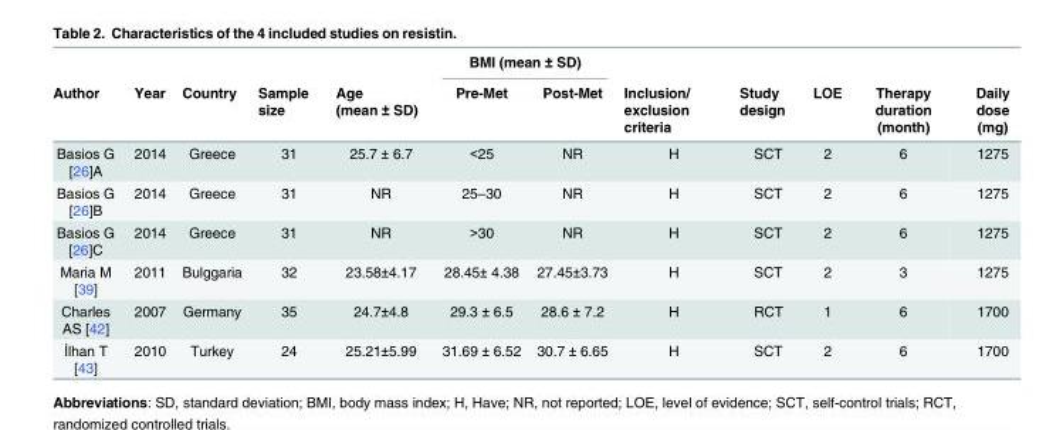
<table><thead><tr><td rowspan="2">Author</td><td rowspan="2">Year</td><td rowspan="2">Country</td><td rowspan="2">Sample size</td><td rowspan="2">Age (mean ± SD)</td><td colspan="2">BMI (mean ± SD)</td><td rowspan="2">Inclusion/ exclusion criteria</td><td rowspan="2">Study design</td><td rowspan="2">LOE</td><td rowspan="2">Therapy duration (month)</td><td rowspan="2">Daily dose (mg)</td></tr><tr><td>Pre-Met</td><td>Post-Met</td></tr></thead><tbody><tr><td>Basios G [26]A</td><td>2014</td><td>Greece</td><td>31</td><td>25.7 ± 6.7</td><td>&lt;25</td><td>NR</td><td>H</td><td>SCT</td><td>2</td><td>6</td><td>1275</td></tr><tr><td>Basios G [26]B</td><td>2014</td><td>Greece</td><td>31</td><td>NR</td><td>25–30</td><td>NR</td><td>H</td><td>SCT</td><td>2</td><td>6</td><td>1275</td></tr><tr><td>Basios G [26]C</td><td>2014</td><td>Greece</td><td>31</td><td>NR</td><td>&gt;30</td><td>NR</td><td>H</td><td>SCT</td><td>2</td><td>6</td><td>1275</td></tr><tr><td>Maria M [39]</td><td>2011</td><td>Bulggaria</td><td>32</td><td>23.58±4.17</td><td>28.45± 4.38</td><td>27.45±3.73</td><td>H</td><td>SCT</td><td>2</td><td>3</td><td>1275</td></tr><tr><td>Charles AS [42]</td><td>2007</td><td>Germany</td><td>35</td><td>24.7±4.8</td><td>29.3 ± 6.5</td><td>28.6 ± 7.2</td><td>H</td><td>RCT</td><td>1</td><td>6</td><td>1700</td></tr><tr><td>İlhan T [43]</td><td>2010</td><td>Turkey</td><td>24</td><td>25.21±5.99</td><td>31.69 ± 6.52</td><td>30.7 ± 6.65</td><td>H</td><td>SCT</td><td>2</td><td>6</td><td>1700</td></tr></tbody></table>